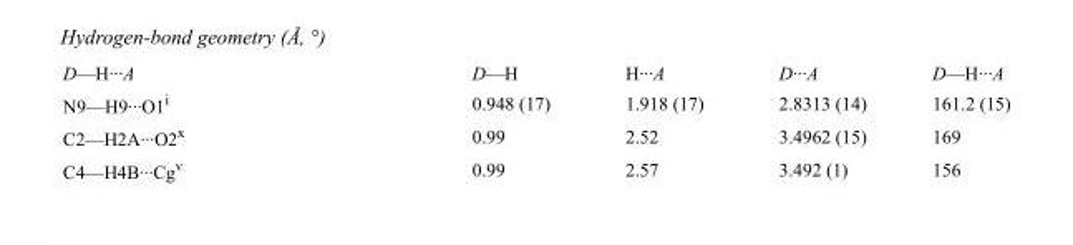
<table><tbody><tr><td>D—H···A</td><td>D—H</td><td>H···A</td><td>D···A</td><td>D—H···A</td></tr><tr><td>N9—H9···O1<sup>i</sup></td><td>0.948 (17)</td><td>1.918 (17)</td><td>2.8313 (14)</td><td>161.2 (15)</td></tr><tr><td>C2—H2A···O2<sup>x</sup></td><td>0.99</td><td>2.52</td><td>3.4962 (15)</td><td>169</td></tr><tr><td>C4—H4B···Cg<sup>v</sup></td><td>0.99</td><td>2.57</td><td>3.492 (1)</td><td>156</td></tr></tbody></table>